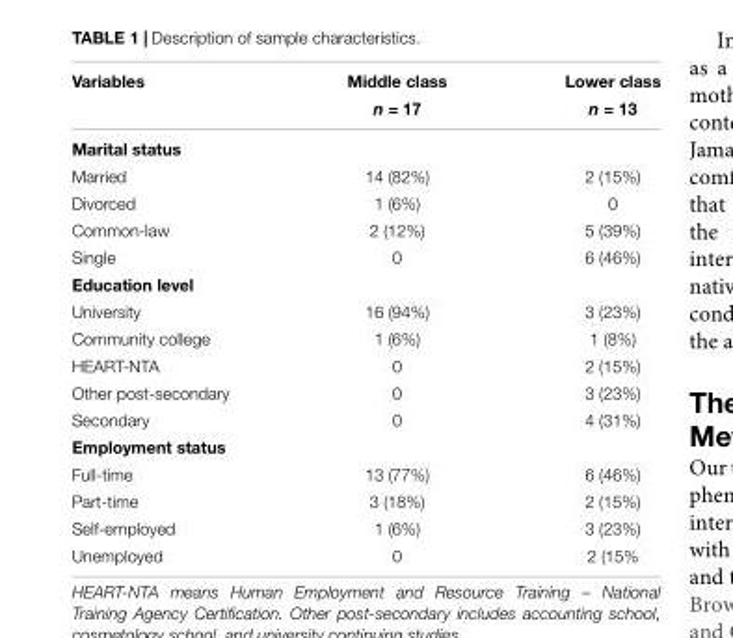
<table><thead><tr><td rowspan="2">Variables</td><td rowspan="2">Middle class n = 17</td><td rowspan="2">Lower class n = 13</td></tr><tr></tr></thead><tbody><tr><td colspan="3">Marital status</td></tr><tr><td>Married</td><td>14 (82%)</td><td>2 (15%)</td></tr><tr><td>Divorced</td><td>1 (6%)</td><td>0</td></tr><tr><td>Common-law</td><td>2 (12%)</td><td>5 (39%)</td></tr><tr><td>Single</td><td>0</td><td>6 (46%)</td></tr><tr><td colspan="3">Education level</td></tr><tr><td>University</td><td>16 (94%)</td><td>3 (23%)</td></tr><tr><td>Community college</td><td>1 (6%)</td><td>1 (8%)</td></tr><tr><td>HEART-NTA</td><td>0</td><td>2 (15%)</td></tr><tr><td>Other post-secondary</td><td>0</td><td>3 (23%)</td></tr><tr><td>Secondary</td><td>0</td><td>4 (31%)</td></tr><tr><td colspan="3">Employment status</td></tr><tr><td>Full-time</td><td>13 (77%)</td><td>6 (46%)</td></tr><tr><td>Part-time</td><td>3 (18%)</td><td>2 (15%)</td></tr><tr><td>Self-employed</td><td>1 (6%)</td><td>3 (23%)</td></tr><tr><td>Unemployed</td><td>0</td><td>2 (15%</td></tr></tbody></table>